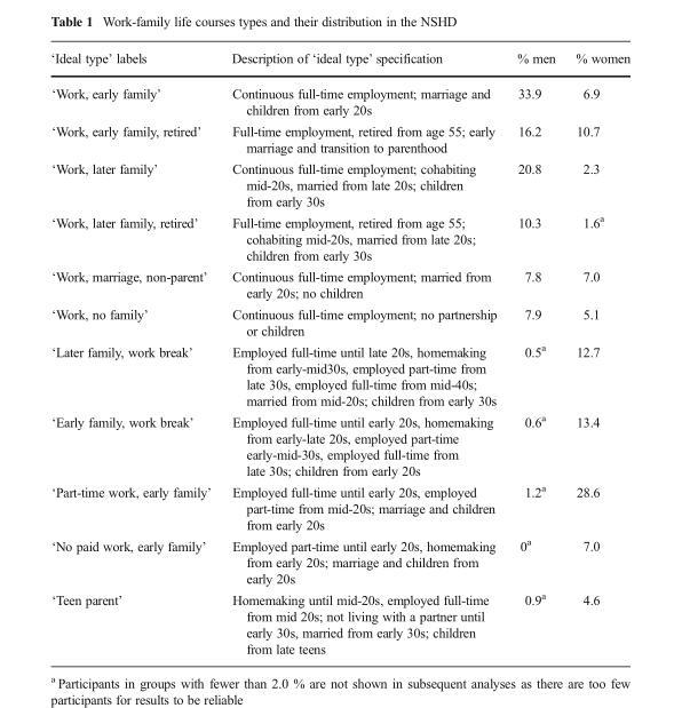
<table><thead><tr><td>‘Ideal type’ labels</td><td>Description of ‘ideal type’ specification</td><td>% men</td><td>% women</td></tr></thead><tbody><tr><td>‘Work, early family’</td><td>Continuous full-time employment; marriage and children from early 20s</td><td>33.9</td><td>6.9</td></tr><tr><td>‘Work, early family, retired’</td><td>Full-time employment, retired from age 55; early marriage and transition to parenthood</td><td>16.2</td><td>10.7</td></tr><tr><td>‘Work, later family’</td><td>Continuous full-time employment; cohabiting mid-20s, married from late 20s; children from early 30s</td><td>20.8</td><td>2.3</td></tr><tr><td>‘Work, later family, retired’</td><td>Full-time employment, retired from age 55; cohabiting mid-20s, married from late 20s; children from early 30s</td><td>10.3</td><td>1.6<sup>a</sup></td></tr><tr><td>‘Work, marriage, non-parent’</td><td>Continuous full-time employment; married from early 20s; no children</td><td>7.8</td><td>7.0</td></tr><tr><td>‘Work, no family’</td><td>Continuous full-time employment; no partnership or children</td><td>7.9</td><td>5.1</td></tr><tr><td>‘Later family, work break’</td><td>Employed full-time until late 20s, homemaking from early-mid30s, employed part-time from late 30s, employed full-time from mid-40s; married from mid-20s; children from early 30s</td><td>0.5<sup>a</sup></td><td>12.7</td></tr><tr><td>‘Early family, work break’</td><td>Employed full-time until early 20s, homemaking from early-late 20s, employed part-time early-mid-30s, employed full-time from late 30s; children from early 20s</td><td>0.6<sup>a</sup></td><td>13.4</td></tr><tr><td>‘Part-time work, early family’</td><td>Employed full-time until early 20s, employed part-time from mid-20s; marriage and children from early 20s</td><td>1.2<sup>a</sup></td><td>28.6</td></tr><tr><td>‘No paid work, early family’</td><td>Employed part-time until early 20s, homemaking from early 20s; marriage and children from early 20s</td><td>0<sup>a</sup></td><td>7.0</td></tr><tr><td>‘Teen parent’</td><td>Homemaking until mid-20s, employed full-time from mid 20s; not living with a partner until early 30s, married from early 30s; children from late teens</td><td>0.9<sup>a</sup></td><td>4.6</td></tr></tbody></table>